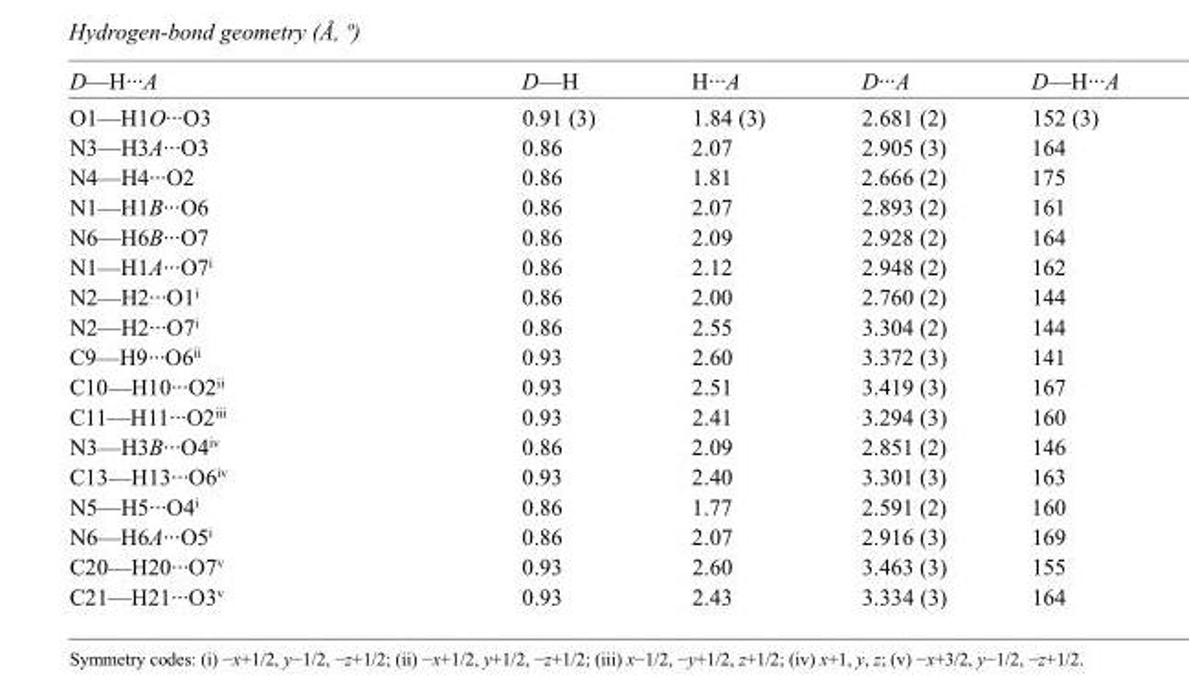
<table><tbody><tr><td>D—H···A</td><td>D—H</td><td>H···A</td><td>D···A</td><td>D—H···A</td></tr><tr><td>O1—H1O···O3</td><td>0.91 (3)</td><td>1.84 (3)</td><td>2.681 (2)</td><td>152 (3)</td></tr><tr><td>N3—H3A···O3</td><td>0.86</td><td>2.07</td><td>2.905 (3)</td><td>164</td></tr><tr><td>N4—H4···O2</td><td>0.86</td><td>1.81</td><td>2.666 (2)</td><td>175</td></tr><tr><td>N1—H1B···O6</td><td>0.86</td><td>2.07</td><td>2.893 (2)</td><td>161</td></tr><tr><td>N6—H6B···O7</td><td>0.86</td><td>2.09</td><td>2.928 (2)</td><td>164</td></tr><tr><td>N1—H1A···O7<sup>i</sup></td><td>0.86</td><td>2.12</td><td>2.948 (2)</td><td>162</td></tr><tr><td>N2—H2···O1<sup>i</sup></td><td>0.86</td><td>2.00</td><td>2.760 (2)</td><td>144</td></tr><tr><td>N2—H2···O7<sup>i</sup></td><td>0.86</td><td>2.55</td><td>3.304 (2)</td><td>144</td></tr><tr><td>C9—H9···O6<sup>ii</sup></td><td>0.93</td><td>2.60</td><td>3.372 (3)</td><td>141</td></tr><tr><td>C10—H10···O2<sup>ii</sup></td><td>0.93</td><td>2.51</td><td>3.419 (3)</td><td>167</td></tr><tr><td>C11—H11···O2<sup>iii</sup></td><td>0.93</td><td>2.41</td><td>3.294 (3)</td><td>160</td></tr><tr><td>N3—H3B···O4<sup>iv</sup></td><td>0.86</td><td>2.09</td><td>2.851 (2)</td><td>146</td></tr><tr><td>C13—H13···O6<sup>iv</sup></td><td>0.93</td><td>2.40</td><td>3.301 (3)</td><td>163</td></tr><tr><td>N5—H5···O4<sup>i</sup></td><td>0.86</td><td>1.77</td><td>2.591 (2)</td><td>160</td></tr><tr><td>N6—H6A···O5<sup>i</sup></td><td>0.86</td><td>2.07</td><td>2.916 (3)</td><td>169</td></tr><tr><td>C20—H20···O7<sup>v</sup></td><td>0.93</td><td>2.60</td><td>3.463 (3)</td><td>155</td></tr><tr><td>C21—H21···O3<sup>v</sup></td><td>0.93</td><td>2.43</td><td>3.334 (3)</td><td>164</td></tr></tbody></table>